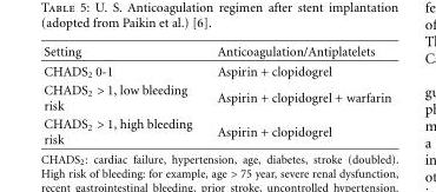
<table><thead><tr><td>Setting</td><td>Anticoagulation/Antiplatelets</td></tr></thead><tbody><tr><td>CHADS<sub>2</sub> 0-1</td><td>Aspirin + clopidogrel</td></tr><tr><td>CHADS<sub>2</sub> &gt; 1, low bleeding risk</td><td>Aspirin + clopidogrel + warfarin</td></tr><tr><td>CHADS<sub>2</sub> &gt; 1, high bleeding risk</td><td>Aspirin + clopidogrel</td></tr></tbody></table>